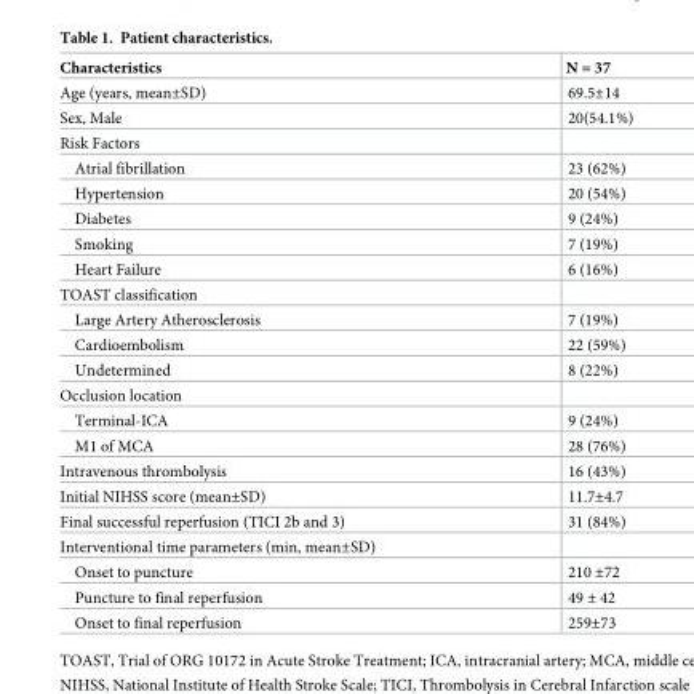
<table><thead><tr><td>Characteristics</td><td>N = 37</td></tr></thead><tbody><tr><td>Age (years, mean±SD)</td><td>69.5±14</td></tr><tr><td>Sex, Male</td><td>20(54.1%)</td></tr><tr><td colspan="2">Risk Factors</td></tr><tr><td>Atrial fibrillation</td><td>23 (62%)</td></tr><tr><td>Hypertension</td><td>20 (54%)</td></tr><tr><td>Diabetes</td><td>9 (24%)</td></tr><tr><td>Smoking</td><td>7 (19%)</td></tr><tr><td>Heart Failure</td><td>6 (16%)</td></tr><tr><td colspan="2">TOAST classification</td></tr><tr><td>Large Artery Atherosclerosis</td><td>7 (19%)</td></tr><tr><td>Cardioembolism</td><td>22 (59%)</td></tr><tr><td>Undetermined</td><td>8 (22%)</td></tr><tr><td colspan="2">Occlusion location</td></tr><tr><td>Terminal-ICA</td><td>9 (24%)</td></tr><tr><td>M1 of MCA</td><td>28 (76%)</td></tr><tr><td>Intravenous thrombolysis</td><td>16 (43%)</td></tr><tr><td>Initial NIHSS score (mean±SD)</td><td>11.7±4.7</td></tr><tr><td>Final successful reperfusion (TICI 2b and 3)</td><td>31 (84%)</td></tr><tr><td colspan="2">Interventional time parameters (min, mean±SD)</td></tr><tr><td>Onset to puncture</td><td>210 ±72</td></tr><tr><td>Puncture to final reperfusion</td><td>49 ± 42</td></tr><tr><td>Onset to final reperfusion</td><td>259±73</td></tr></tbody></table>